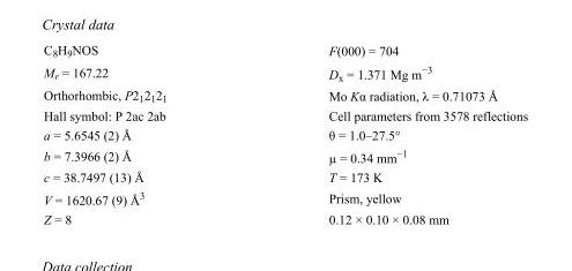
<table><tbody><tr><td>C<sub>8</sub>H<sub>9</sub>NOS</td><td>F(000) = 704</td></tr><tr><td>M<sub>r</sub> = 167.22</td><td>D<sub>x</sub> = 1.371 Mg m<sup>−3</sup></td></tr><tr><td>Orthorhombic, P2<sub>1</sub>2<sub>1</sub>2<sub>1</sub></td><td>Mo Kα radiation, λ = 0.71073 Å</td></tr><tr><td>Hall symbol: P 2ac 2ab</td><td>Cell parameters from 3578 reflections</td></tr><tr><td>a = 5.6545 (2) Å</td><td>θ = 1.0–27.5°</td></tr><tr><td>b = 7.3966 (2) Å</td><td>µ = 0.34 mm<sup>−1</sup></td></tr><tr><td>c = 38.7497 (13) Å</td><td>T = 173 K</td></tr><tr><td>V = 1620.67 (9) Å<sup>3</sup></td><td>Prism, yellow</td></tr><tr><td>Z = 8</td><td>0.12 × 0.10 × 0.08 mm</td></tr></tbody></table>